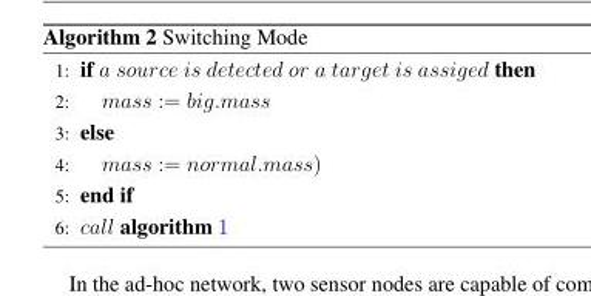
<table><tbody><tr><td>1:</td><td>if a source is detected or a target is assiged then</td></tr><tr><td>2:</td><td>mass := big.mass</td></tr><tr><td>3:</td><td>else</td></tr><tr><td>4:</td><td>mass := normal.mass)</td></tr><tr><td>5:</td><td>end if</td></tr><tr><td>6:</td><td>call algorithm 1</td></tr></tbody></table>